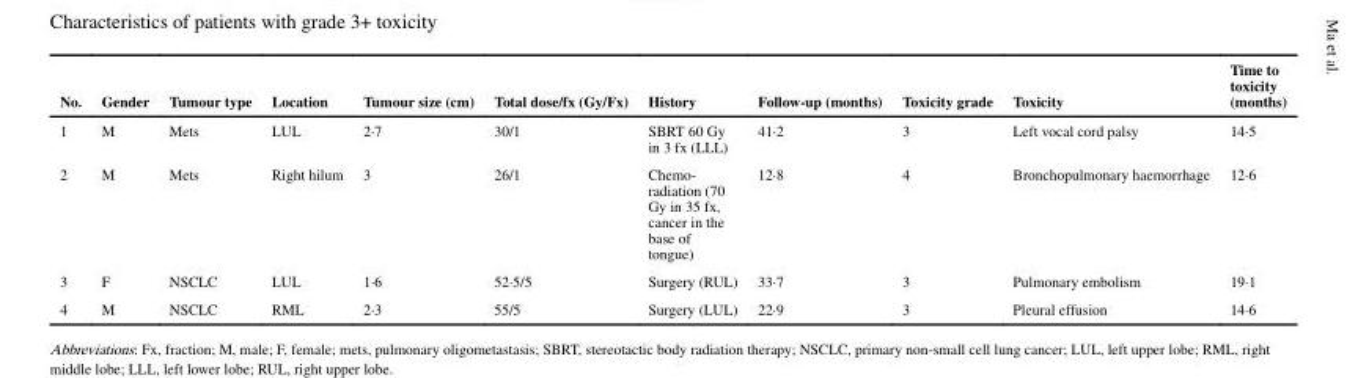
<table><thead><tr><td>No.</td><td>Gender</td><td>Tumour type</td><td>Location</td><td>Tumour size (cm)</td><td>Total dose/fx (Gy/Fx)</td><td>History</td><td>Follow-up (months)</td><td>Toxicity grade</td><td>Toxicity</td><td>Time to toxicity (months)</td></tr></thead><tbody><tr><td>1</td><td>M</td><td>Mets</td><td>LUL</td><td>2·7</td><td>30/1</td><td>SBRT 60 Gy in 3 fx (LLL)</td><td>41·2</td><td>3</td><td>Left vocal cord palsy</td><td>14·5</td></tr><tr><td>2</td><td>M</td><td>Mets</td><td>Right hilum</td><td>3</td><td>26/1</td><td>Chemo- radiation (70 Gy in 35 fx, cancer in the base of tongue)</td><td>12·8</td><td>4</td><td>Bronchopulmonary haemorrhage</td><td>12·6</td></tr><tr><td>3</td><td>F</td><td>NSCLC</td><td>LUL</td><td>1·6</td><td>52·5/5</td><td>Surgery (RUL)</td><td>33·7</td><td>3</td><td>Pulmonary embolism</td><td>19·1</td></tr><tr><td>4</td><td>M</td><td>NSCLC</td><td>RML</td><td>2·3</td><td>55/5</td><td>Surgery (LUL)</td><td>22·9</td><td>3</td><td>Pleural effusion</td><td>14·6</td></tr></tbody></table>